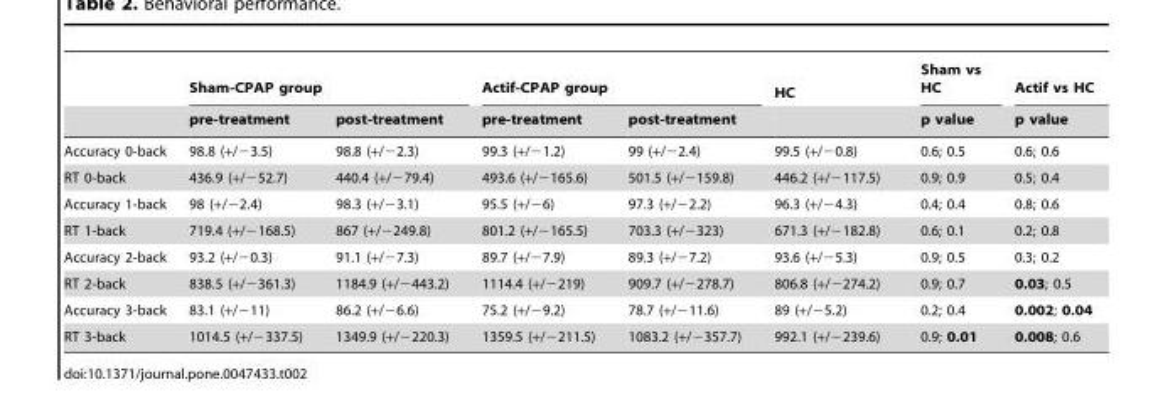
<table><thead><tr><td rowspan="2"></td><td colspan="2">Sham-CPAP group</td><td colspan="2">Actif-CPAP group</td><td rowspan="2">HC</td><td rowspan="2">Sham vs HC p value</td><td rowspan="2">Actif vs HC p value</td></tr><tr><td>pre-treatment</td><td>post-treatment</td><td>pre-treatment</td><td>post-treatment</td></tr></thead><tbody><tr><td>Accuracy 0-back</td><td>98.8 (+/−3.5)</td><td>98.8 (+/−2.3)</td><td>99.3 (+/−1.2)</td><td>99 (+/−2.4)</td><td>99.5 (+/−0.8)</td><td>0.6; 0.5</td><td>0.6; 0.6</td></tr><tr><td>RT 0-back</td><td>436.9 (+/−52.7)</td><td>440.4 (+/−79.4)</td><td>493.6 (+/−165.6)</td><td>501.5 (+/−159.8)</td><td>446.2 (+/−117.5)</td><td>0.9; 0.9</td><td>0.5; 0.4</td></tr><tr><td>Accuracy 1-back</td><td>98 (+/−2.4)</td><td>98.3 (+/−3.1)</td><td>95.5 (+/−6)</td><td>97.3 (+/−2.2)</td><td>96.3 (+/−4.3)</td><td>0.4; 0.4</td><td>0.8; 0.6</td></tr><tr><td>RT 1-back</td><td>719.4 (+/−168.5)</td><td>867 (+/−249.8)</td><td>801.2 (+/−165.5)</td><td>703.3 (+/−323)</td><td>671.3 (+/−182.8)</td><td>0.6; 0.1</td><td>0.2; 0.8</td></tr><tr><td>Accuracy 2-back</td><td>93.2 (+/−0.3)</td><td>91.1 (+/−7.3)</td><td>89.7 (+/−7.9)</td><td>89.3 (+/−7.2)</td><td>93.6 (+/−5.3)</td><td>0.9; 0.5</td><td>0.3; 0.2</td></tr><tr><td>RT 2-back</td><td>838.5 (+/−361.3)</td><td>1184.9 (+/−443.2)</td><td>1114.4 (+/−219)</td><td>909.7 (+/−278.7)</td><td>806.8 (+/−274.2)</td><td>0.9; 0.7</td><td>0.03; 0.5</td></tr><tr><td>Accuracy 3-back</td><td>83.1 (+/−11)</td><td>86.2 (+/−6.6)</td><td>75.2 (+/−9.2)</td><td>78.7 (+/−11.6)</td><td>89 (+/−5.2)</td><td>0.2; 0.4</td><td>0.002; 0.04</td></tr><tr><td>RT 3-back</td><td>1014.5 (+/−337.5)</td><td>1349.9 (+/−220.3)</td><td>1359.5 (+/−211.5)</td><td>1083.2 (+/−357.7)</td><td>992.1 (+/−239.6)</td><td>0.9; 0.01</td><td>0.008; 0.6</td></tr></tbody></table>